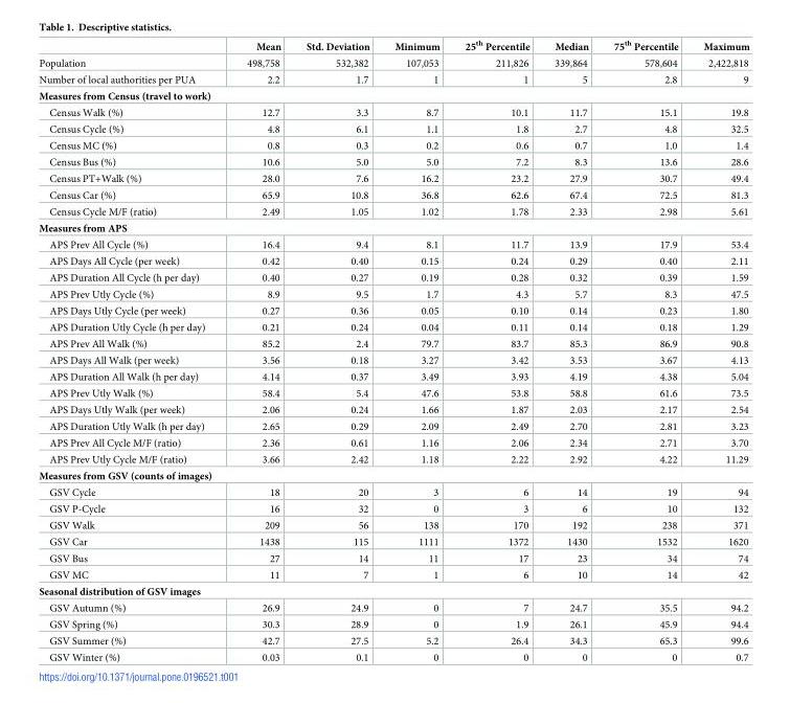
<table><thead><tr><td></td><td>Mean</td><td>Std. Deviation</td><td>Minimum</td><td>25<sup>th</sup> Percentile</td><td>Median</td><td>75<sup>th</sup> Percentile</td><td>Maximum</td></tr></thead><tbody><tr><td>Population</td><td>498,758</td><td>532,382</td><td>107,053</td><td>211,826</td><td>339,864</td><td>578,604</td><td>2,422,818</td></tr><tr><td>Number of local authorities per PUA</td><td>2.2</td><td>1.7</td><td>1</td><td>1</td><td>5</td><td>2.8</td><td>9</td></tr><tr><td colspan="8">Measures from Census (travel to work)</td></tr><tr><td>Census Walk (%)</td><td>12.7</td><td>3.3</td><td>8.7</td><td>10.1</td><td>11.7</td><td>15.1</td><td>19.8</td></tr><tr><td>Census Cycle (%)</td><td>4.8</td><td>6.1</td><td>1.1</td><td>1.8</td><td>2.7</td><td>4.8</td><td>32.5</td></tr><tr><td>Census MC (%)</td><td>0.8</td><td>0.3</td><td>0.2</td><td>0.6</td><td>0.7</td><td>1.0</td><td>1.4</td></tr><tr><td>Census Bus (%)</td><td>10.6</td><td>5.0</td><td>5.0</td><td>7.2</td><td>8.3</td><td>13.6</td><td>28.6</td></tr><tr><td>Census PT+Walk (%)</td><td>28.0</td><td>7.6</td><td>16.2</td><td>23.2</td><td>27.9</td><td>30.7</td><td>49.4</td></tr><tr><td>Census Car (%)</td><td>65.9</td><td>10.8</td><td>36.8</td><td>62.6</td><td>67.4</td><td>72.5</td><td>81.3</td></tr><tr><td>Census Cycle M/F (ratio)</td><td>2.49</td><td>1.05</td><td>1.02</td><td>1.78</td><td>2.33</td><td>2.98</td><td>5.61</td></tr><tr><td colspan="8">Measures from APS</td></tr><tr><td>APS Prev All Cycle (%)</td><td>16.4</td><td>9.4</td><td>8.1</td><td>11.7</td><td>13.9</td><td>17.9</td><td>53.4</td></tr><tr><td>APS Days All Cycle (per week)</td><td>0.42</td><td>0.40</td><td>0.15</td><td>0.24</td><td>0.29</td><td>0.40</td><td>2.11</td></tr><tr><td>APS Duration All Cycle (h per day)</td><td>0.40</td><td>0.27</td><td>0.19</td><td>0.28</td><td>0.32</td><td>0.39</td><td>1.59</td></tr><tr><td>APS Prev Utly Cycle (%)</td><td>8.9</td><td>9.5</td><td>1.7</td><td>4.3</td><td>5.7</td><td>8.3</td><td>47.5</td></tr><tr><td>APS Days Utly Cycle (per week)</td><td>0.27</td><td>0.36</td><td>0.05</td><td>0.10</td><td>0.14</td><td>0.23</td><td>1.80</td></tr><tr><td>APS Duration Utly Cycle (h per day)</td><td>0.21</td><td>0.24</td><td>0.04</td><td>0.11</td><td>0.14</td><td>0.18</td><td>1.29</td></tr><tr><td>APS Prev All Walk (%)</td><td>85.2</td><td>2.4</td><td>79.7</td><td>83.7</td><td>85.3</td><td>86.9</td><td>90.8</td></tr><tr><td>APS Days All Walk (per week)</td><td>3.56</td><td>0.18</td><td>3.27</td><td>3.42</td><td>3.53</td><td>3.67</td><td>4.13</td></tr><tr><td>APS Duration All Walk (h per day)</td><td>4.14</td><td>0.37</td><td>3.49</td><td>3.93</td><td>4.19</td><td>4.38</td><td>5.04</td></tr><tr><td>APS Prev Utly Walk (%)</td><td>58.4</td><td>5.4</td><td>47.6</td><td>53.8</td><td>58.8</td><td>61.6</td><td>73.5</td></tr><tr><td>APS Days Utly Walk (per week)</td><td>2.06</td><td>0.24</td><td>1.66</td><td>1.87</td><td>2.03</td><td>2.17</td><td>2.54</td></tr><tr><td>APS Duration Utly Walk (h per day)</td><td>2.65</td><td>0.29</td><td>2.09</td><td>2.49</td><td>2.70</td><td>2.81</td><td>3.23</td></tr><tr><td>APS Prev All Cycle M/F (ratio)</td><td>2.36</td><td>0.61</td><td>1.16</td><td>2.06</td><td>2.34</td><td>2.71</td><td>3.70</td></tr><tr><td>APS Prev Utly Cycle M/F (ratio)</td><td>3.66</td><td>2.42</td><td>1.18</td><td>2.22</td><td>2.92</td><td>4.22</td><td>11.29</td></tr><tr><td colspan="8">Measures from GSV (counts of images)</td></tr><tr><td>GSV Cycle</td><td>18</td><td>20</td><td>3</td><td>6</td><td>14</td><td>19</td><td>94</td></tr><tr><td>GSV P-Cycle</td><td>16</td><td>32</td><td>0</td><td>3</td><td>6</td><td>10</td><td>132</td></tr><tr><td>GSV Walk</td><td>209</td><td>56</td><td>138</td><td>170</td><td>192</td><td>238</td><td>371</td></tr><tr><td>GSV Car</td><td>1438</td><td>115</td><td>1111</td><td>1372</td><td>1430</td><td>1532</td><td>1620</td></tr><tr><td>GSV Bus</td><td>27</td><td>14</td><td>11</td><td>17</td><td>23</td><td>34</td><td>74</td></tr><tr><td>GSV MC</td><td>11</td><td>7</td><td>1</td><td>6</td><td>10</td><td>14</td><td>42</td></tr><tr><td colspan="8">Seasonal distribution of GSV images</td></tr><tr><td>GSV Autumn (%)</td><td>26.9</td><td>24.9</td><td>0</td><td>7</td><td>24.7</td><td>35.5</td><td>94.2</td></tr><tr><td>GSV Spring (%)</td><td>30.3</td><td>28.9</td><td>0</td><td>1.9</td><td>26.1</td><td>45.9</td><td>94.4</td></tr><tr><td>GSV Summer (%)</td><td>42.7</td><td>27.5</td><td>5.2</td><td>26.4</td><td>34.3</td><td>65.3</td><td>99.6</td></tr><tr><td>GSV Winter (%)</td><td>0.03</td><td>0.1</td><td>0</td><td>0</td><td>0</td><td>0</td><td>0.7</td></tr></tbody></table>